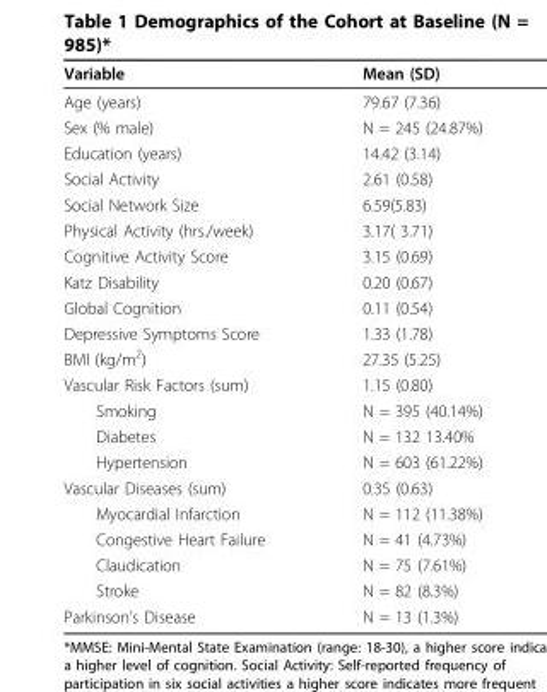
<table><thead><tr><td>Variable</td><td>Mean (SD)</td></tr></thead><tbody><tr><td>Age (years)</td><td>79.67 (7.36)</td></tr><tr><td>Sex (% male)</td><td>N = 245 (24.87%)</td></tr><tr><td>Education (years)</td><td>14.42 (3.14)</td></tr><tr><td>Social Activity</td><td>2.61 (0.58)</td></tr><tr><td>Social Network Size</td><td>6.59(5.83)</td></tr><tr><td>Physical Activity (hrs./week)</td><td>3.17( 3.71)</td></tr><tr><td>Cognitive Activity Score</td><td>3.15 (0.69)</td></tr><tr><td>Katz Disability</td><td>0.20 (0.67)</td></tr><tr><td>Global Cognition</td><td>0.11 (0.54)</td></tr><tr><td>Depressive Symptoms Score</td><td>1.33 (1.78)</td></tr><tr><td>BMI (kg/m<sup>2</sup>)</td><td>27.35 (5.25)</td></tr><tr><td>Vascular Risk Factors (sum)</td><td>1.15 (0.80)</td></tr><tr><td>Smoking</td><td>N = 395 (40.14%)</td></tr><tr><td>Diabetes</td><td>N = 132 13.40%</td></tr><tr><td>Hypertension</td><td>N = 603 (61.22%)</td></tr><tr><td>Vascular Diseases (sum)</td><td>0.35 (0.63)</td></tr><tr><td>Myocardial Infarction</td><td>N = 112 (11.38%)</td></tr><tr><td>Congestive Heart Failure</td><td>N = 41 (4.73%)</td></tr><tr><td>Claudication</td><td>N = 75 (7.61%)</td></tr><tr><td>Stroke</td><td>N = 82 (8.3%)</td></tr><tr><td>Parkinson’s Disease</td><td>N = 13 (1.3%)</td></tr></tbody></table>